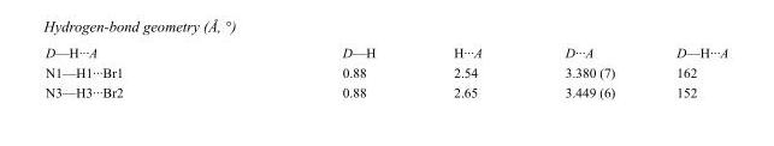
<table><tbody><tr><td>D—H···A</td><td>D—H</td><td>H···A</td><td>D···A</td><td>D—H···A</td></tr><tr><td>N1—H1···Br1</td><td>0.88</td><td>2.54</td><td>3.380 (7)</td><td>162</td></tr><tr><td>N3—H3···Br2</td><td>0.88</td><td>2.65</td><td>3.449 (6)</td><td>152</td></tr></tbody></table>